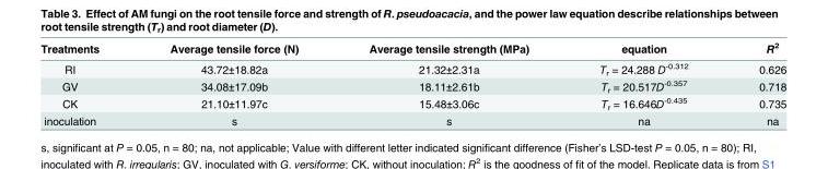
<table><thead><tr><td>Treatments</td><td>Average tensile force (N)</td><td>Average tensile strength (MPa)</td><td>equation</td><td>R<sup>2</sup></td></tr></thead><tbody><tr><td>RI</td><td>43.72±18.82a</td><td>21.32±2.31a</td><td>T<sub>r</sub> = 24.288 D<sup>-0.312</sup></td><td>0.626</td></tr><tr><td>GV</td><td>34.08±17.09b</td><td>18.11±2.61b</td><td>T<sub>r</sub> = 20.517D<sup>-0.357</sup></td><td>0.718</td></tr><tr><td>CK</td><td>21.10±11.97c</td><td>15.48±3.06c</td><td>T<sub>r</sub> = 16.646D<sup>-0.435</sup></td><td>0.735</td></tr><tr><td>inoculation</td><td>s</td><td>s</td><td>na</td><td>na</td></tr></tbody></table>